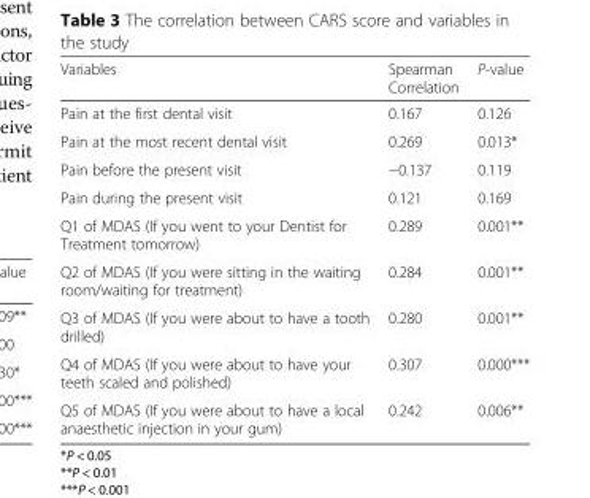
<table><thead><tr><td>Variables</td><td>Spearman Correlation</td><td>P-value</td></tr></thead><tbody><tr><td>Pain at the first dental visit</td><td>0.167</td><td>0.126</td></tr><tr><td>Pain at the most recent dental visit</td><td>0.269</td><td>0.013*</td></tr><tr><td>Pain before the present visit</td><td>−0.137</td><td>0.119</td></tr><tr><td>Pain during the present visit</td><td>0.121</td><td>0.169</td></tr><tr><td>Q1 of MDAS (If you went to your Dentist for Treatment tomorrow)</td><td>0.289</td><td>0.001**</td></tr><tr><td>Q2 of MDAS (If you were sitting in the waiting room/waiting for treatment)</td><td>0.284</td><td>0.001**</td></tr><tr><td>Q3 of MDAS (If you were about to have a tooth drilled)</td><td>0.280</td><td>0.001**</td></tr><tr><td>Q4 of MDAS (If you were about to have your teeth scaled and polished)</td><td>0.307</td><td>0.000***</td></tr><tr><td>Q5 of MDAS (If you were about to have a local anaesthetic injection in your gum)</td><td>0.242</td><td>0.006**</td></tr></tbody></table>